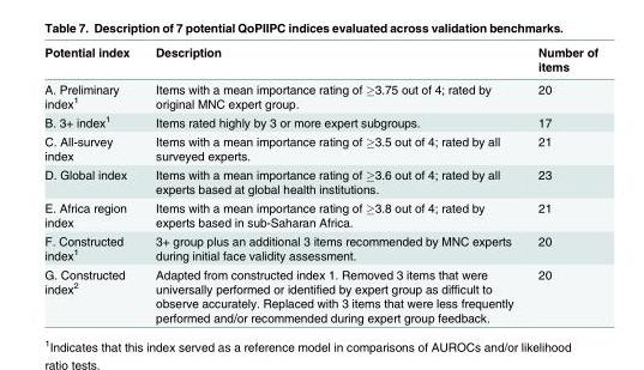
<table><thead><tr><td>Potential index</td><td>Description</td><td>Number of items</td></tr></thead><tbody><tr><td>A. Preliminary index<sup>1</sup></td><td>Items with a mean importance rating of ≥3.75 out of 4; rated by original MNC expert group.</td><td>20</td></tr><tr><td>B. 3+ index<sup>1</sup></td><td>Items rated highly by 3 or more expert subgroups.</td><td>17</td></tr><tr><td>C. All-survey index</td><td>Items with a mean importance rating of ≥3.5 out of 4; rated by all surveyed experts.</td><td>21</td></tr><tr><td>D. Global index</td><td>Items with a mean importance rating of ≥3.6 out of 4; rated by all experts based at global health institutions.</td><td>23</td></tr><tr><td>E. Africa region index</td><td>Items with a mean importance rating of ≥3.8 out of 4; rated by experts based in sub-Saharan Africa.</td><td>21</td></tr><tr><td>F. Constructed index<sup>1</sup></td><td>3+ group plus an additional 3 items recommended by MNC experts during initial face validity assessment.</td><td>20</td></tr><tr><td>G. Constructed index<sup>2</sup></td><td>Adapted from constructed index 1. Removed 3 items that were universally performed or identified by expert group as difficult to observe accurately. Replaced with 3 items that were less frequently performed and/or recommended during expert group feedback.</td><td>20</td></tr></tbody></table>